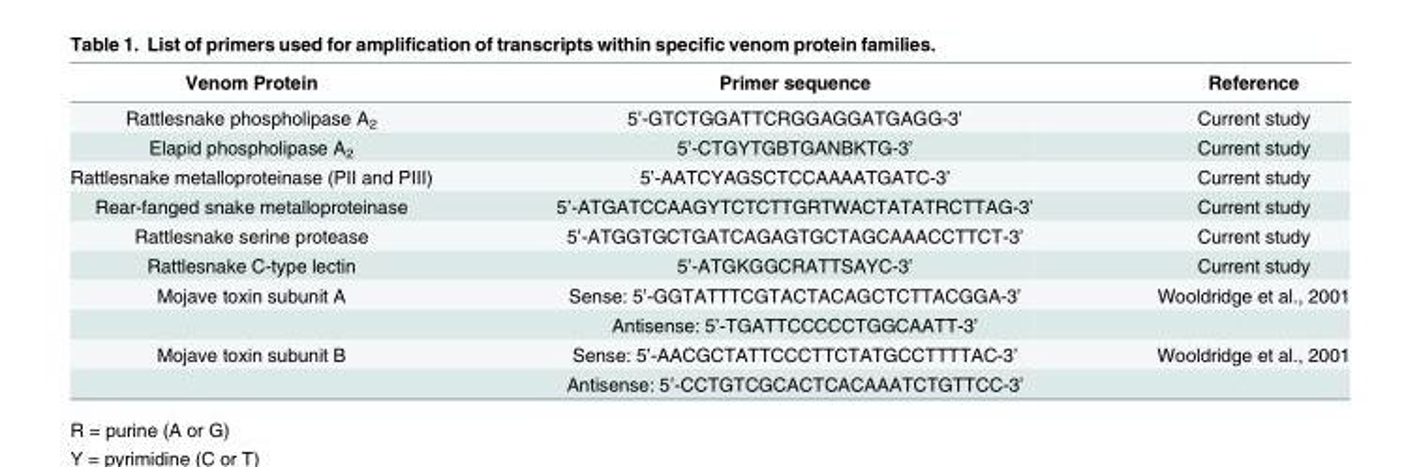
<table><thead><tr><td>Venom Protein</td><td>Primer sequence</td><td>Reference</td></tr></thead><tbody><tr><td>Rattlesnake phospholipase A<sub>2</sub></td><td>5’-GTCTGGATTCRGGAGGATGAGG-3’</td><td>Current study</td></tr><tr><td>Elapid phospholipase A<sub>2</sub></td><td>5’-CTGYTGBTGANBKTG-3’</td><td>Current study</td></tr><tr><td>Rattlesnake metalloproteinase (PII and PIII)</td><td>5’-AATCYAGSCTCCAAAATGATC-3’</td><td>Current study</td></tr><tr><td>Rear-fanged snake metalloproteinase</td><td>5’-ATGATCCAAGYTCTCTTGRTWACTATATRCTTAG-3’</td><td>Current study</td></tr><tr><td>Rattlesnake serine protease</td><td>5’-ATGGTGCTGATCAGAGTGCTAGCAAACCTTCT-3’</td><td>Current study</td></tr><tr><td>Rattlesnake C-type lectin</td><td>5’-ATGKGGCRATTSAYC-3’</td><td>Current study</td></tr><tr><td rowspan="2">Mojave toxin subunit A</td><td>Sense: 5’-GGTATTTCGTACTACAGCTCTTACGGA-3’</td><td>Wooldridge et al., 2001</td></tr><tr><td>Antisense: 5’-TGATTCCCCCTGGCAATT-3’</td><td></td></tr><tr><td rowspan="2">Mojave toxin subunit B</td><td>Sense: 5’-AACGCTATTCCCTTCTATGCCTTTTAC-3’</td><td>Wooldridge et al., 2001</td></tr><tr><td>Antisense: 5’-CCTGTCGCACTCACAAATCTGTTCC-3’</td><td></td></tr></tbody></table>